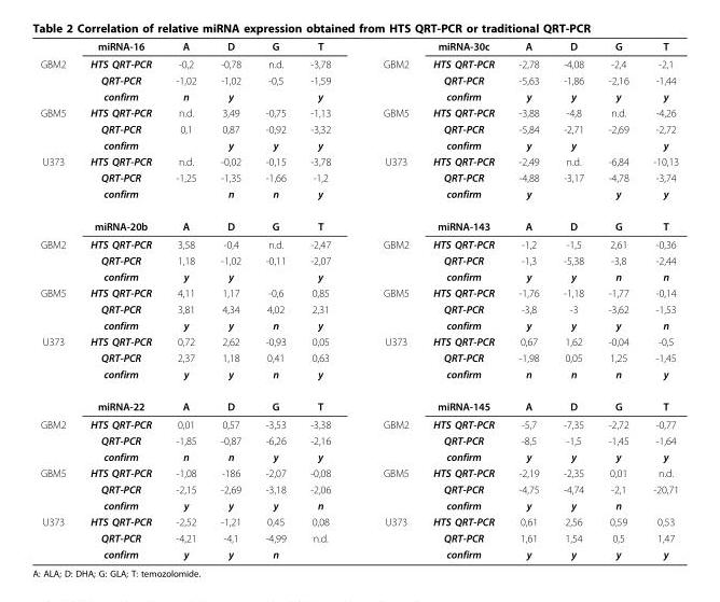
<table><thead><tr><td></td><td>miRNA-16</td><td>A</td><td>D</td><td>G</td><td>T</td><td></td><td>miRNA-30c</td><td>A</td><td>D</td><td>G</td><td>T</td></tr></thead><tbody><tr><td rowspan="3">GBM2</td><td>HTS QRT-PCR</td><td>-0,2</td><td>-0,78</td><td>n.d.</td><td>-3,78</td><td>GBM2</td><td>HTS QRT-PCR</td><td>-2,78</td><td>-4,08</td><td>-2,4</td><td>-2,1</td></tr><tr><td>QRT-PCR</td><td>-1,02</td><td>-1,02</td><td>-0,5</td><td>-1,59</td><td></td><td>QRT-PCR</td><td>-5,63</td><td>-1,86</td><td>-2,16</td><td>-1,44</td></tr><tr><td>confirm</td><td>n</td><td>y</td><td></td><td>y</td><td></td><td>confirm</td><td>y</td><td>y</td><td>y</td><td>y</td></tr><tr><td rowspan="3">GBM5</td><td>HTS QRT-PCR</td><td>n.d.</td><td>3,49</td><td>-0,75</td><td>-1,13</td><td>GBM5</td><td>HTS QRT-PCR</td><td>-3,88</td><td>-4,8</td><td>n.d.</td><td>-4,26</td></tr><tr><td>QRT-PCR</td><td>0,1</td><td>0,87</td><td>-0,92</td><td>-3,32</td><td></td><td>QRT-PCR</td><td>-5,84</td><td>-2,71</td><td>-2,69</td><td>-2,72</td></tr><tr><td>confirm</td><td></td><td>y</td><td>y</td><td>y</td><td></td><td>confirm</td><td>y</td><td>y</td><td></td><td>y</td></tr><tr><td rowspan="4">U373</td><td>HTS QRT-PCR</td><td>n.d.</td><td>-0,02</td><td>-0,15</td><td>-3,78</td><td>U373</td><td>HTS QRT-PCR</td><td>-2,49</td><td>n.d.</td><td>-6,84</td><td>-10,13</td></tr><tr><td>QRT-PCR</td><td>-1,25</td><td>-1,35</td><td>-1,66</td><td>-1,2</td><td></td><td>QRT-PCR</td><td>-4,88</td><td>-3,17</td><td>-4,78</td><td>-3,74</td></tr><tr><td>confirm</td><td></td><td>n</td><td>n</td><td>y</td><td></td><td>confirm</td><td>y</td><td></td><td>y</td><td>y</td></tr><tr><td>miRNA-20b</td><td>A</td><td>D</td><td>G</td><td>T</td><td></td><td>miRNA-143</td><td>A</td><td>D</td><td>G</td><td>T</td></tr><tr><td rowspan="3">GBM2</td><td>HTS QRT-PCR</td><td>3,58</td><td>-0,4</td><td>n.d.</td><td>-2,47</td><td>GBM2</td><td>HTS QRT-PCR</td><td>-1,2</td><td>-1,5</td><td>2,61</td><td>-0,36</td></tr><tr><td>QRT-PCR</td><td>1,18</td><td>-1,02</td><td>-0,11</td><td>-2,07</td><td></td><td>QRT-PCR</td><td>-1,3</td><td>-5,38</td><td>-3,8</td><td>-2,44</td></tr><tr><td>confirm</td><td>y</td><td>y</td><td></td><td>y</td><td></td><td>confirm</td><td>y</td><td>y</td><td>n</td><td>n</td></tr><tr><td rowspan="3">GBM5</td><td>HTS QRT-PCR</td><td>4,11</td><td>1,17</td><td>-0,6</td><td>0,85</td><td>GBM5</td><td>HTS QRT-PCR</td><td>-1,76</td><td>-1,18</td><td>-1,77</td><td>-0,14</td></tr><tr><td>QRT-PCR</td><td>3,81</td><td>4,34</td><td>4,02</td><td>2,31</td><td></td><td>QRT-PCR</td><td>-3,8</td><td>-3</td><td>-3,62</td><td>-1,53</td></tr><tr><td>confirm</td><td>y</td><td>y</td><td>n</td><td>y</td><td></td><td>confirm</td><td>y</td><td>y</td><td>y</td><td>n</td></tr><tr><td rowspan="4">U373</td><td>HTS QRT-PCR</td><td>0,72</td><td>2,62</td><td>-0,93</td><td>0,05</td><td>U373</td><td>HTS QRT-PCR</td><td>0,67</td><td>1,62</td><td>-0,04</td><td>-0,5</td></tr><tr><td>QRT-PCR</td><td>2,37</td><td>1,18</td><td>0,41</td><td>0,63</td><td></td><td>QRT-PCR</td><td>-1,98</td><td>0,05</td><td>1,25</td><td>-1,45</td></tr><tr><td>confirm</td><td>y</td><td>y</td><td>n</td><td>y</td><td></td><td>confirm</td><td>n</td><td>n</td><td>n</td><td>y</td></tr><tr><td>miRNA-22</td><td>A</td><td>D</td><td>G</td><td>T</td><td></td><td>miRNA-145</td><td>A</td><td>D</td><td>G</td><td>T</td></tr><tr><td rowspan="3">GBM2</td><td>HTS QRT-PCR</td><td>0,01</td><td>0,57</td><td>-3,53</td><td>-3,38</td><td>GBM2</td><td>HTS QRT-PCR</td><td>-5,7</td><td>-7,35</td><td>-2,72</td><td>-0,77</td></tr><tr><td>QRT-PCR</td><td>-1,85</td><td>-0,87</td><td>-6,26</td><td>-2,16</td><td></td><td>QRT-PCR</td><td>-8,5</td><td>-1,5</td><td>-1,45</td><td>-1,64</td></tr><tr><td>confirm</td><td>n</td><td>n</td><td>y</td><td>y</td><td></td><td>confirm</td><td>y</td><td>y</td><td>y</td><td>y</td></tr><tr><td rowspan="3">GBM5</td><td>HTS QRT-PCR</td><td>-1,08</td><td>-186</td><td>-2,07</td><td>-0,08</td><td>GBM5</td><td>HTS QRT-PCR</td><td>-2,19</td><td>-2,35</td><td>0,01</td><td>n.d.</td></tr><tr><td>QRT-PCR</td><td>-2,15</td><td>-2,69</td><td>-3,18</td><td>-2,06</td><td></td><td>QRT-PCR</td><td>-4,75</td><td>-4,74</td><td>-2,1</td><td>-20,71</td></tr><tr><td>confirm</td><td>y</td><td>y</td><td>y</td><td>n</td><td></td><td>confirm</td><td>y</td><td>y</td><td>n</td><td></td></tr><tr><td rowspan="3">U373</td><td>HTS QRT-PCR</td><td>-2,52</td><td>-1,21</td><td>0,45</td><td>0,08</td><td>U373</td><td>HTS QRT-PCR</td><td>0,61</td><td>2,56</td><td>0,59</td><td>0,53</td></tr><tr><td>QRT-PCR</td><td>-4,21</td><td>-4,1</td><td>-4,99</td><td>n.d.</td><td></td><td>QRT-PCR</td><td>1,61</td><td>1,54</td><td>0,5</td><td>1,47</td></tr><tr><td>confirm</td><td>y</td><td>y</td><td>n</td><td></td><td></td><td>confirm</td><td>y</td><td>y</td><td>y</td><td>y</td></tr></tbody></table>